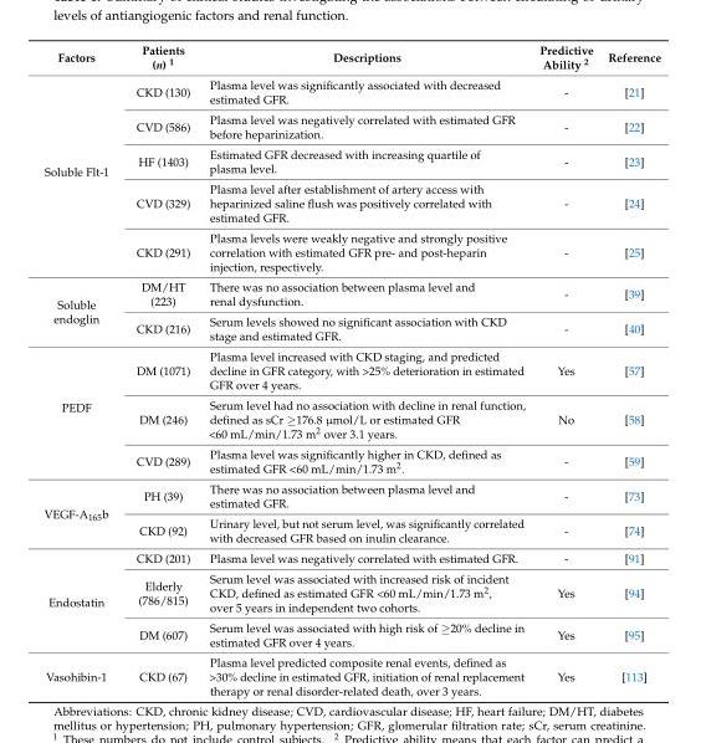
<table><thead><tr><td>Factors</td><td>Patients (n) <sup>1</sup></td><td>Descriptions</td><td>Predictive Ability <sup>2</sup></td><td>Reference</td></tr></thead><tbody><tr><td rowspan="5">Soluble Flt-1</td><td>CKD (130)</td><td>Plasma level was significantly associated with decreased estimated GFR.</td><td>-</td><td>[21]</td></tr><tr><td>CVD (586)</td><td>Plasma level was negatively correlated with estimated GFR before heparinization.</td><td>-</td><td>[22]</td></tr><tr><td>HF (1403)</td><td>Estimated GFR decreased with increasing quartile of plasma level.</td><td>-</td><td>[23]</td></tr><tr><td>CVD (329)</td><td>Plasma level after establishment of artery access with heparinized saline flush was positively correlated with estimated GFR.</td><td>-</td><td>[24]</td></tr><tr><td>CKD (291)</td><td>Plasma levels were weakly negative and strongly positive correlation with estimated GFR pre- and post-heparin injection, respectively.</td><td>-</td><td>[25]</td></tr><tr><td rowspan="2">Soluble endoglin</td><td>DM/HT (223)</td><td>There was no association between plasma level and renal dysfunction.</td><td>-</td><td>[39]</td></tr><tr><td>CKD (216)</td><td>Serum levels showed no significant association with CKD stage and estimated GFR.</td><td>-</td><td>[40]</td></tr><tr><td rowspan="3">PEDF</td><td>DM (1071)</td><td>Plasma level increased with CKD staging, and predicted decline in GFR category, with &gt;25% deterioration in estimated GFR over 4 years.</td><td>Yes</td><td>[57]</td></tr><tr><td>DM (246)</td><td>Serum level had no association with decline in renal function, defined as sCr ≥176.8 µmol/L or estimated GFR &lt;60 mL/min/1.73 m<sup>2</sup> over 3.1 years.</td><td>No</td><td>[58]</td></tr><tr><td>CVD (289)</td><td>Plasma level was significantly higher in CKD, defined as estimated GFR &lt;60 mL/min/1.73 m<sup>2</sup>.</td><td>-</td><td>[59]</td></tr><tr><td rowspan="2">VEGF-A<sub>165</sub>b</td><td>PH (39)</td><td>There was no association between plasma level and estimated GFR.</td><td>-</td><td>[73]</td></tr><tr><td>CKD (92)</td><td>Urinary level, but not serum level, was significantly correlated with decreased GFR based on inulin clearance.</td><td>-</td><td>[74]</td></tr><tr><td rowspan="3">Endostatin</td><td>CKD (201)</td><td>Plasma level was negatively correlated with estimated GFR.</td><td>-</td><td>[91]</td></tr><tr><td>Elderly (786/815)</td><td>Serum level was associated with increased risk of incident CKD, defined as estimated GFR &lt;60 mL/min/1.73 m<sup>2</sup>, over 5 years in independent two cohorts.</td><td>Yes</td><td>[94]</td></tr><tr><td>DM (607)</td><td>Serum level was associated with high risk of ≥20% decline in estimated GFR over 4 years.</td><td>Yes</td><td>[95]</td></tr><tr><td>Vasohibin-1</td><td>CKD (67)</td><td>Plasma level predicted composite renal events, defined as &gt;30% decline in estimated GFR, initiation of renal replacement therapy or renal disorder-related death, over 3 years.</td><td>Yes</td><td>[113]</td></tr></tbody></table>